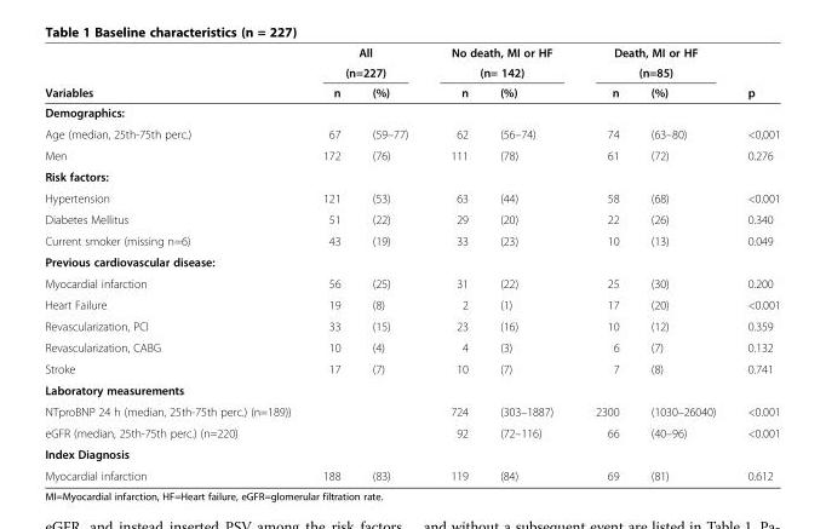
<table><thead><tr><td rowspan="3">Variables</td><td rowspan="2" colspan="2">All (n=227)</td><td rowspan="2" colspan="2">No death, MI or HF (n= 142)</td><td rowspan="2" colspan="2">Death, MI or HF (n=85)</td><td rowspan="3">p</td></tr><tr></tr><tr><td>n</td><td>(%)</td><td>n</td><td>(%)</td><td>n</td><td>(%)</td></tr></thead><tbody><tr><td colspan="8">Demographics:</td></tr><tr><td>Age (median, 25th-75th perc.)</td><td>67</td><td>(59–77)</td><td>62</td><td>(56–74)</td><td>74</td><td>(63–80)</td><td>&lt;0,001</td></tr><tr><td>Men</td><td>172</td><td>(76)</td><td>111</td><td>(78)</td><td>61</td><td>(72)</td><td>0.276</td></tr><tr><td colspan="8">Risk factors:</td></tr><tr><td>Hypertension</td><td>121</td><td>(53)</td><td>63</td><td>(44)</td><td>58</td><td>(68)</td><td>&lt;0.001</td></tr><tr><td>Diabetes Mellitus</td><td>51</td><td>(22)</td><td>29</td><td>(20)</td><td>22</td><td>(26)</td><td>0.340</td></tr><tr><td>Current smoker (missing n=6)</td><td>43</td><td>(19)</td><td>33</td><td>(23)</td><td>10</td><td>(13)</td><td>0.049</td></tr><tr><td colspan="8">Previous cardiovascular disease:</td></tr><tr><td>Myocardial infarction</td><td>56</td><td>(25)</td><td>31</td><td>(22)</td><td>25</td><td>(30)</td><td>0.200</td></tr><tr><td>Heart Failure</td><td>19</td><td>(8)</td><td>2</td><td>(1)</td><td>17</td><td>(20)</td><td>&lt;0.001</td></tr><tr><td>Revascularization, PCI</td><td>33</td><td>(15)</td><td>23</td><td>(16)</td><td>10</td><td>(12)</td><td>0.359</td></tr><tr><td>Revascularization, CABG</td><td>10</td><td>(4)</td><td>4</td><td>(3)</td><td>6</td><td>(7)</td><td>0.132</td></tr><tr><td>Stroke</td><td>17</td><td>(7)</td><td>10</td><td>(7)</td><td>7</td><td>(8)</td><td>0.741</td></tr><tr><td colspan="8">Laboratory measurements</td></tr><tr><td>NTproBNP 24 h (median, 25th-75th perc.) (n=189))</td><td></td><td></td><td>724</td><td>(303–1887)</td><td>2300</td><td>(1030–26040)</td><td>&lt;0.001</td></tr><tr><td>eGFR (median, 25th-75th perc.) (n=220)</td><td></td><td></td><td>92</td><td>(72–116)</td><td>66</td><td>(40–96)</td><td>&lt;0.001</td></tr><tr><td colspan="8">Index Diagnosis</td></tr><tr><td>Myocardial infarction</td><td>188</td><td>(83)</td><td>119</td><td>(84)</td><td>69</td><td>(81)</td><td>0.612</td></tr></tbody></table>